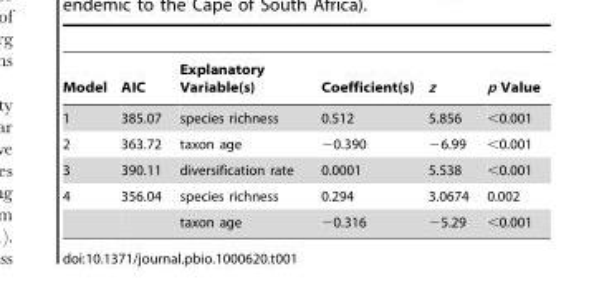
<table><thead><tr><td>Model</td><td>AIC</td><td>Explanatory Variable(s)</td><td>Coefficient(s)</td><td>z</td><td>p Value</td></tr></thead><tbody><tr><td>1</td><td>385.07</td><td>species richness</td><td>0.512</td><td>5.856</td><td>&lt;0.001</td></tr><tr><td>2</td><td>363.72</td><td>taxon age</td><td>−0.390</td><td>−6.99</td><td>&lt;0.001</td></tr><tr><td>3</td><td>390.11</td><td>diversification rate</td><td>0.0001</td><td>5.538</td><td>&lt;0.001</td></tr><tr><td rowspan="2">4</td><td>356.04</td><td>species richness</td><td>0.294</td><td>3.0674</td><td>0.002</td></tr><tr><td></td><td>taxon age</td><td>−0.316</td><td>−5.29</td><td>&lt;0.001</td></tr></tbody></table>